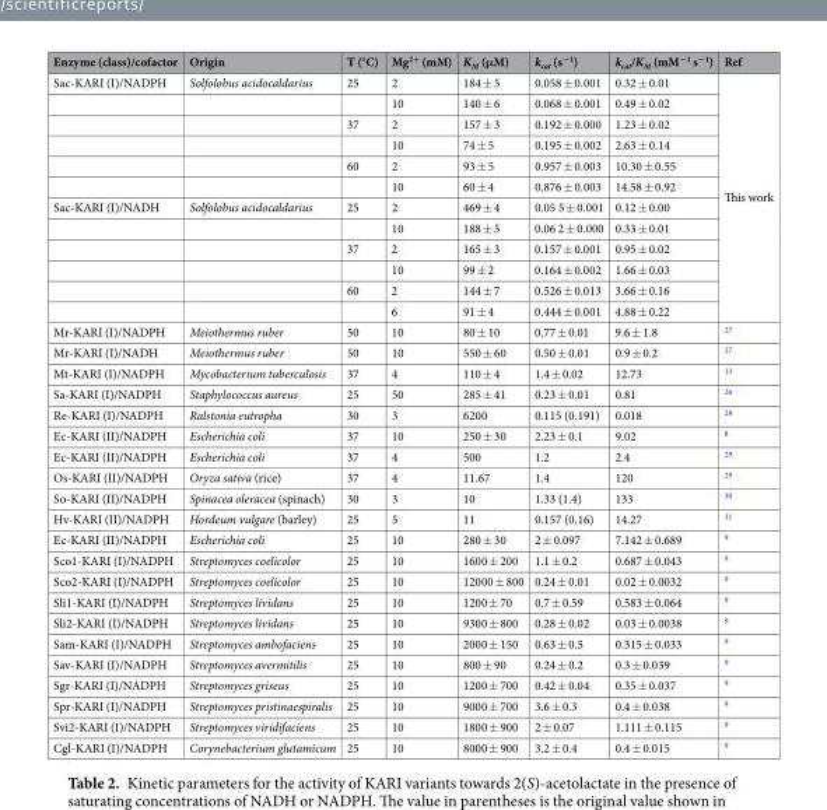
<table><thead><tr><td>Enzyme (class)/cofactor</td><td>Origin</td><td>T (°C)</td><td>Mg<sup>2+</sup> (mM)</td><td>K<sub>M</sub> (μM)</td><td>k<sub>cat</sub> (s<sup>−1</sup>)</td><td>k<sub>cat</sub>/K<sub>M</sub> (mM<sup>−1</sup> s<sup>−1</sup>)</td><td>Ref</td></tr></thead><tbody><tr><td rowspan="6">Sac-KARI (I)/NADPH</td><td>Solfolobus acidocaldarius</td><td>25</td><td>2</td><td>184 ± 5</td><td>0.058 ± 0.001</td><td>0.32 ± 0.01</td><td rowspan="12">This work</td></tr><tr><td></td><td></td><td>10</td><td>140 ± 6</td><td>0.068 ± 0.001</td><td>0.49 ± 0.02</td></tr><tr><td></td><td>37</td><td>2</td><td>157 ± 3</td><td>0.192 ± 0.000</td><td>1.23 ± 0.02</td></tr><tr><td></td><td></td><td>10</td><td>74 ± 5</td><td>0.195 ± 0.002</td><td>2.63 ± 0.14</td></tr><tr><td></td><td>60</td><td>2</td><td>93 ± 5</td><td>0.957 ± 0.003</td><td>10.30 ± 0.55</td></tr><tr><td></td><td></td><td>10</td><td>60 ± 4</td><td>0.876 ± 0.003</td><td>14.58 ± 0.92</td></tr><tr><td rowspan="6">Sac-KARI (I)/NADH</td><td>Solfolobus acidocaldarius</td><td>25</td><td>2</td><td>469 ± 4</td><td>0.05 5 ± 0.001</td><td>0.12 ± 0.00</td></tr><tr><td></td><td></td><td>10</td><td>188 ± 5</td><td>0.06 2 ± 0.000</td><td>0.33 ± 0.01</td></tr><tr><td></td><td>37</td><td>2</td><td>165 ± 3</td><td>0.157 ± 0.001</td><td>0.95 ± 0.02</td></tr><tr><td></td><td></td><td>10</td><td>99 ± 2</td><td>0.164 ± 0.002</td><td>1.66 ± 0.03</td></tr><tr><td></td><td>60</td><td>2</td><td>144 ± 7</td><td>0.526 ± 0.013</td><td>3.66 ± 0.16</td></tr><tr><td></td><td></td><td>6</td><td>91 ± 4</td><td>0.444 ± 0.001</td><td>4.88 ± 0.22</td></tr><tr><td>Mr-KARI (I)/NADPH</td><td>Meiothermus ruber</td><td>50</td><td>10</td><td>80 ± 10</td><td>0.77 ± 0.01</td><td>9.6 ± 1.8</td><td><sup>27</sup></td></tr><tr><td>Mr-KARI (I)/NADH</td><td>Meiothermus ruber</td><td>50</td><td>10</td><td>550 ± 60</td><td>0.50 ± 0.01</td><td>0.9 ± 0.2</td><td><sup>27</sup></td></tr><tr><td>Mt-KARI (I)/NADPH</td><td>Mycobacterium tuberculosis</td><td>37</td><td>4</td><td>110 ± 4</td><td>1.4 ± 0.02</td><td>12.73</td><td><sup>13</sup></td></tr><tr><td>Sa-KARI (I)/NADPH</td><td>Staphylococcus aureus</td><td>25</td><td>50</td><td>285 ± 41</td><td>0.23 ± 0.01</td><td>0.81</td><td><sup>26</sup></td></tr><tr><td>Re-KARI (I)/NADPH</td><td>Ralstonia eutropha</td><td>30</td><td>3</td><td>6200</td><td>0.115 (0.191)</td><td>0.018</td><td><sup>28</sup></td></tr><tr><td>Ec-KARI (II)/NADPH</td><td>Escherichia coli</td><td>37</td><td>10</td><td>250 ± 30</td><td>2.23 ± 0.1</td><td>9.02</td><td><sup>8</sup></td></tr><tr><td>Ec-KARI (II)/NADPH</td><td>Escherichia coli</td><td>37</td><td>4</td><td>500</td><td>1.2</td><td>2.4</td><td><sup>29</sup></td></tr><tr><td>Os-KARI (II)/NADPH</td><td>Oryza sativa (rice)</td><td>37</td><td>4</td><td>11.67</td><td>1.4</td><td>120</td><td><sup>29</sup></td></tr><tr><td>So-KARI (II)/NADPH</td><td>Spinacea oleracea (spinach)</td><td>30</td><td>3</td><td>10</td><td>1.33 (1.4)</td><td>133</td><td><sup>30</sup></td></tr><tr><td>Hv-KARI (II)/NADPH</td><td>Hordeum vulgare (barley)</td><td>25</td><td>5</td><td>11</td><td>0.157 (0.16)</td><td>14.27</td><td><sup>31</sup></td></tr><tr><td>Ec-KARI (II)/NADPH</td><td>Escherichia coli</td><td>25</td><td>10</td><td>280 ± 30</td><td>2 ± 0.097</td><td>7.142 ± 0.689</td><td><sup>9</sup></td></tr><tr><td>Sco1-KARI (I)/NADPH</td><td>Streptomyces coelicolor</td><td>25</td><td>10</td><td>1600 ± 200</td><td>1.1 ± 0.2</td><td>0.687 ± 0.043</td><td><sup>9</sup></td></tr><tr><td>Sco2-KARI (I)/NADPH</td><td>Streptomyces coelicolor</td><td>25</td><td>10</td><td>12000 ± 800</td><td>0.24 ± 0.01</td><td>0.02 ± 0.0032</td><td><sup>9</sup></td></tr><tr><td>Sli1-KARI (I)/NADPH</td><td>Streptomyces lividans</td><td>25</td><td>10</td><td>1200 ± 70</td><td>0.7 ± 0.59</td><td>0.583 ± 0.064</td><td><sup>9</sup></td></tr><tr><td>Sli2-KARI (I)/NADPH</td><td>Streptomyces lividans</td><td>25</td><td>10</td><td>9300 ± 800</td><td>0.28 ± 0.02</td><td>0.03 ± 0.0038</td><td><sup>9</sup></td></tr><tr><td>Sam-KARI (I)/NADPH</td><td>Streptomyces ambofaciens</td><td>25</td><td>10</td><td>2000 ± 150</td><td>0.63 ± 0.5</td><td>0.315 ± 0.033</td><td><sup>9</sup></td></tr><tr><td>Sav-KARI (I)/NADPH</td><td>Streptomyces avermitilis</td><td>25</td><td>10</td><td>800 ± 90</td><td>0.24 ± 0.2</td><td>0.3 ± 0.039</td><td><sup>9</sup></td></tr><tr><td>Sgr-KARI (I)/NADPH</td><td>Streptomyces griseus</td><td>25</td><td>10</td><td>1200 ± 700</td><td>0.42 ± 0.04</td><td>0.35 ± 0.037</td><td><sup>9</sup></td></tr><tr><td>Spr-KARI (I)/NADPH</td><td>Streptomyces pristinaespiralis</td><td>25</td><td>10</td><td>9000 ± 700</td><td>3.6 ± 0.3</td><td>0.4 ± 0.038</td><td><sup>9</sup></td></tr><tr><td>Svi2-KARI (I)/NADPH</td><td>Streptomyces viridifaciens</td><td>25</td><td>10</td><td>1800 ± 900</td><td>2 ± 0.07</td><td>1.111 ± 0.115</td><td><sup>9</sup></td></tr><tr><td>Cgl-KARI (I)/NADPH</td><td>Corynebacterium glutamicum</td><td>25</td><td>10</td><td>8000 ± 900</td><td>3.2 ± 0.4</td><td>0.4 ± 0.015</td><td><sup>9</sup></td></tr></tbody></table>